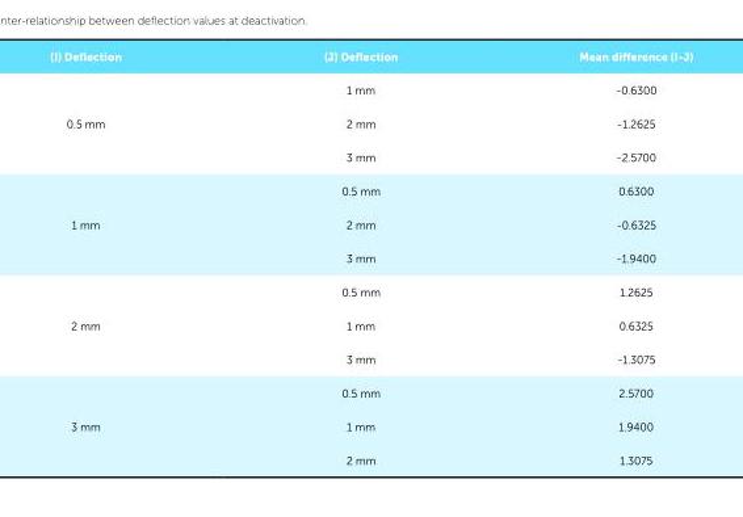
<table><thead><tr><td>(I) Deflection</td><td>(J) Deflection</td><td>Mean difference (I-J)</td></tr></thead><tbody><tr><td rowspan="3">0.5 mm</td><td>1 mm</td><td>-0.6300</td></tr><tr><td>2 mm</td><td>-1.2625</td></tr><tr><td>3 mm</td><td>-2.5700</td></tr><tr><td rowspan="3">1 mm</td><td>0.5 mm</td><td>0.6300</td></tr><tr><td>2 mm</td><td>-0.6325</td></tr><tr><td>3 mm</td><td>-1.9400</td></tr><tr><td rowspan="3">2 mm</td><td>0.5 mm</td><td>1.2625</td></tr><tr><td>1 mm</td><td>0.6325</td></tr><tr><td>3 mm</td><td>-1.3075</td></tr><tr><td rowspan="3">3 mm</td><td>0.5 mm</td><td>2.5700</td></tr><tr><td>1 mm</td><td>1.9400</td></tr><tr><td>2 mm</td><td>1.3075</td></tr></tbody></table>